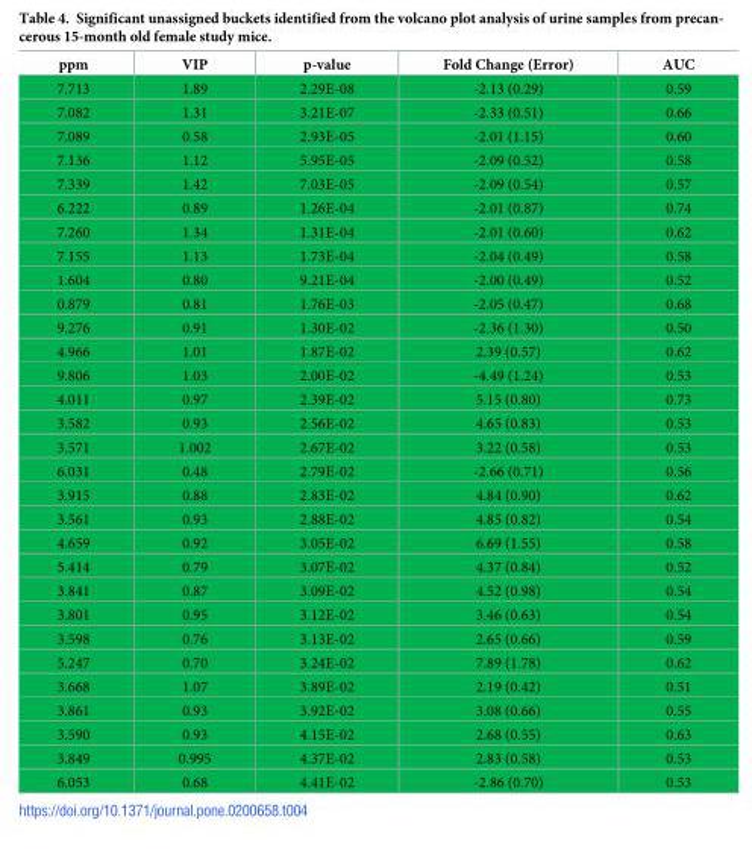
<table><thead><tr><td>ppm</td><td>VIP</td><td>p-value</td><td>Fold Change (Error)</td><td>AUC</td></tr></thead><tbody><tr><td>7.713</td><td>1.89</td><td>2.29E-08</td><td>-2.13 (0.29)</td><td>0.59</td></tr><tr><td>7.082</td><td>1.31</td><td>3.21E-07</td><td>-2.33 (0.51)</td><td>0.66</td></tr><tr><td>7.089</td><td>0.58</td><td>2.93E-05</td><td>-2.01 (1.15)</td><td>0.60</td></tr><tr><td>7.136</td><td>1.12</td><td>5.95E-05</td><td>-2.09 (0.52)</td><td>0.58</td></tr><tr><td>7.339</td><td>1.42</td><td>7.03E-05</td><td>-2.09 (0.54)</td><td>0.57</td></tr><tr><td>6.222</td><td>0.89</td><td>1.26E-04</td><td>-2.01 (0.87)</td><td>0.74</td></tr><tr><td>7.260</td><td>1.34</td><td>1.31E-04</td><td>-2.01 (0.60)</td><td>0.62</td></tr><tr><td>7.155</td><td>1.13</td><td>1.73E-04</td><td>-2.04 (0.49)</td><td>0.58</td></tr><tr><td>1.604</td><td>0.80</td><td>9.21E-04</td><td>-2.00 (0.49)</td><td>0.52</td></tr><tr><td>0.879</td><td>0.81</td><td>1.76E-03</td><td>-2.05 (0.47)</td><td>0.68</td></tr><tr><td>9.276</td><td>0.91</td><td>1.30E-02</td><td>-2.36 (1.30)</td><td>0.50</td></tr><tr><td>4.966</td><td>1.01</td><td>1.87E-02</td><td>2.39 (0.57)</td><td>0.62</td></tr><tr><td>9.806</td><td>1.03</td><td>2.00E-02</td><td>-4.49 (1.24)</td><td>0.53</td></tr><tr><td>4.011</td><td>0.97</td><td>2.39E-02</td><td>5.15 (0.80)</td><td>0.73</td></tr><tr><td>3.582</td><td>0.93</td><td>2.56E-02</td><td>4.65 (0.83)</td><td>0.53</td></tr><tr><td>3.571</td><td>1.002</td><td>2.67E-02</td><td>3.22 (0.58)</td><td>0.53</td></tr><tr><td>6.031</td><td>0.48</td><td>2.79E-02</td><td>-2.66 (0.71)</td><td>0.56</td></tr><tr><td>3.915</td><td>0.88</td><td>2.83E-02</td><td>4.84 (0.90)</td><td>0.62</td></tr><tr><td>3.561</td><td>0.93</td><td>2.88E-02</td><td>4.85 (0.82)</td><td>0.54</td></tr><tr><td>4.659</td><td>0.92</td><td>3.05E-02</td><td>6.69 (1.55)</td><td>0.58</td></tr><tr><td>5.414</td><td>0.79</td><td>3.07E-02</td><td>4.37 (0.84)</td><td>0.52</td></tr><tr><td>3.841</td><td>0.87</td><td>3.09E-02</td><td>4.52 (0.98)</td><td>0.54</td></tr><tr><td>3.801</td><td>0.95</td><td>3.12E-02</td><td>3.46 (0.63)</td><td>0.54</td></tr><tr><td>3.598</td><td>0.76</td><td>3.13E-02</td><td>2.65 (0.66)</td><td>0.59</td></tr><tr><td>5.247</td><td>0.70</td><td>3.24E-02</td><td>7.89 (1.78)</td><td>0.62</td></tr><tr><td>3.668</td><td>1.07</td><td>3.89E-02</td><td>2.19 (0.42)</td><td>0.51</td></tr><tr><td>3.861</td><td>0.93</td><td>3.92E-02</td><td>3.08 (0.66)</td><td>0.55</td></tr><tr><td>3.590</td><td>0.93</td><td>4.15E-02</td><td>2.68 (0.55)</td><td>0.63</td></tr><tr><td>3.849</td><td>0.995</td><td>4.37E-02</td><td>2.83 (0.58)</td><td>0.53</td></tr><tr><td>6.053</td><td>0.68</td><td>4.41E-02</td><td>-2.86 (0.70)</td><td>0.53</td></tr></tbody></table>